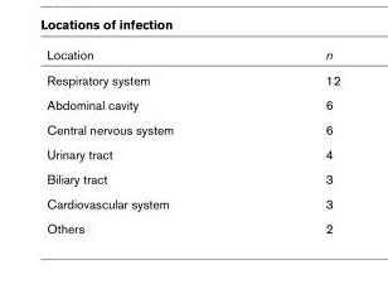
<table><thead><tr><td>Location</td><td>n</td></tr></thead><tbody><tr><td>Respiratory system</td><td>12</td></tr><tr><td>Abdominal cavity</td><td>6</td></tr><tr><td>Central nervous system</td><td>6</td></tr><tr><td>Urinary tract</td><td>4</td></tr><tr><td>Biliary tract</td><td>3</td></tr><tr><td>Cardiovascular system</td><td>3</td></tr><tr><td>Others</td><td>2</td></tr></tbody></table>